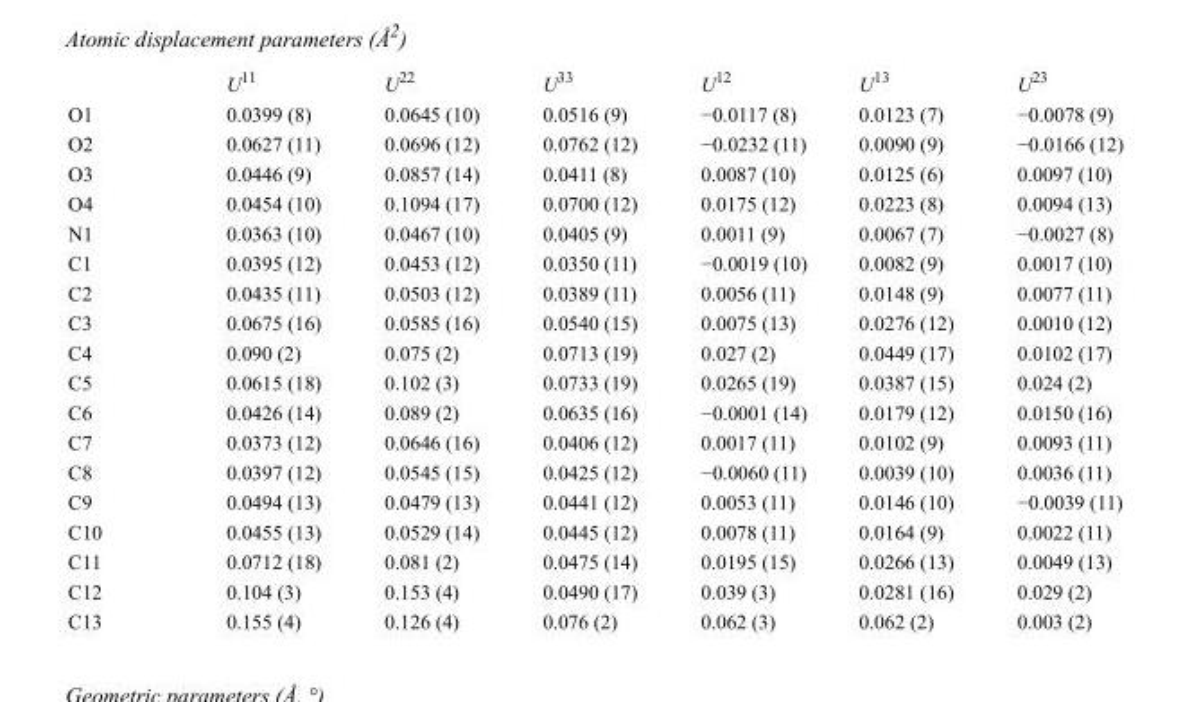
<table><thead><tr><td></td><td>U<sup>11</sup></td><td>U<sup>22</sup></td><td>U<sup>33</sup></td><td>U<sup>12</sup></td><td>U<sup>13</sup></td><td>U<sup>23</sup></td></tr></thead><tbody><tr><td>O1</td><td>0.0399 (8)</td><td>0.0645 (10)</td><td>0.0516 (9)</td><td>−0.0117 (8)</td><td>0.0123 (7)</td><td>−0.0078 (9)</td></tr><tr><td>O2</td><td>0.0627 (11)</td><td>0.0696 (12)</td><td>0.0762 (12)</td><td>−0.0232 (11)</td><td>0.0090 (9)</td><td>−0.0166 (12)</td></tr><tr><td>O3</td><td>0.0446 (9)</td><td>0.0857 (14)</td><td>0.0411 (8)</td><td>0.0087 (10)</td><td>0.0125 (6)</td><td>0.0097 (10)</td></tr><tr><td>O4</td><td>0.0454 (10)</td><td>0.1094 (17)</td><td>0.0700 (12)</td><td>0.0175 (12)</td><td>0.0223 (8)</td><td>0.0094 (13)</td></tr><tr><td>N1</td><td>0.0363 (10)</td><td>0.0467 (10)</td><td>0.0405 (9)</td><td>0.0011 (9)</td><td>0.0067 (7)</td><td>−0.0027 (8)</td></tr><tr><td>C1</td><td>0.0395 (12)</td><td>0.0453 (12)</td><td>0.0350 (11)</td><td>−0.0019 (10)</td><td>0.0082 (9)</td><td>0.0017 (10)</td></tr><tr><td>C2</td><td>0.0435 (11)</td><td>0.0503 (12)</td><td>0.0389 (11)</td><td>0.0056 (11)</td><td>0.0148 (9)</td><td>0.0077 (11)</td></tr><tr><td>C3</td><td>0.0675 (16)</td><td>0.0585 (16)</td><td>0.0540 (15)</td><td>0.0075 (13)</td><td>0.0276 (12)</td><td>0.0010 (12)</td></tr><tr><td>C4</td><td>0.090 (2)</td><td>0.075 (2)</td><td>0.0713 (19)</td><td>0.027 (2)</td><td>0.0449 (17)</td><td>0.0102 (17)</td></tr><tr><td>C5</td><td>0.0615 (18)</td><td>0.102 (3)</td><td>0.0733 (19)</td><td>0.0265 (19)</td><td>0.0387 (15)</td><td>0.024 (2)</td></tr><tr><td>C6</td><td>0.0426 (14)</td><td>0.089 (2)</td><td>0.0635 (16)</td><td>−0.0001 (14)</td><td>0.0179 (12)</td><td>0.0150 (16)</td></tr><tr><td>C7</td><td>0.0373 (12)</td><td>0.0646 (16)</td><td>0.0406 (12)</td><td>0.0017 (11)</td><td>0.0102 (9)</td><td>0.0093 (11)</td></tr><tr><td>C8</td><td>0.0397 (12)</td><td>0.0545 (15)</td><td>0.0425 (12)</td><td>−0.0060 (11)</td><td>0.0039 (10)</td><td>0.0036 (11)</td></tr><tr><td>C9</td><td>0.0494 (13)</td><td>0.0479 (13)</td><td>0.0441 (12)</td><td>0.0053 (11)</td><td>0.0146 (10)</td><td>−0.0039 (11)</td></tr><tr><td>C10</td><td>0.0455 (13)</td><td>0.0529 (14)</td><td>0.0445 (12)</td><td>0.0078 (11)</td><td>0.0164 (9)</td><td>0.0022 (11)</td></tr><tr><td>C11</td><td>0.0712 (18)</td><td>0.081 (2)</td><td>0.0475 (14)</td><td>0.0195 (15)</td><td>0.0266 (13)</td><td>0.0049 (13)</td></tr><tr><td>C12</td><td>0.104 (3)</td><td>0.153 (4)</td><td>0.0490 (17)</td><td>0.039 (3)</td><td>0.0281 (16)</td><td>0.029 (2)</td></tr><tr><td>C13</td><td>0.155 (4)</td><td>0.126 (4)</td><td>0.076 (2)</td><td>0.062 (3)</td><td>0.062 (2)</td><td>0.003 (2)</td></tr></tbody></table>